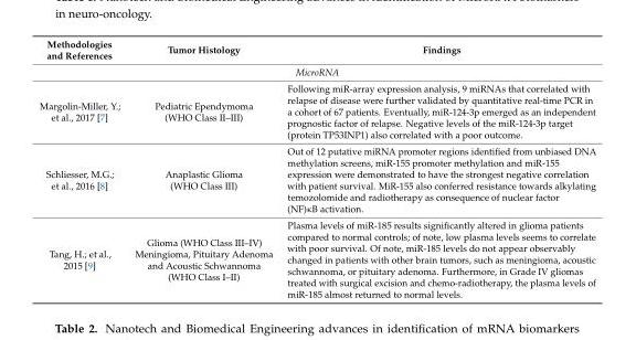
<table><thead><tr><td>Methodologies and References</td><td>Tumor Histology</td><td>Findings</td></tr></thead><tbody><tr><td colspan="3">MicroRNA</td></tr><tr><td>Margolin-Miller, Y.; et al., 2017 [7]</td><td>Pediatric Ependymoma (WHO Class II–III)</td><td>Following miR-array expression analysis, 9 miRNAs that correlated with relapse of disease were further validated by quantitative real-time PCR in a cohort of 67 patients. Eventually, miR-124-3p emerged as an independent prognostic factor of relapse. Negative levels of the miR-124-3p target (protein TP53INP1) also correlated with a poor outcome.</td></tr><tr><td>Schliesser, M.G.; et al., 2016 [8]</td><td>Anaplastic Glioma (WHO Class III)</td><td>Out of 12 putative miRNA promoter regions identified from unbiased DNA methylation screens, miR-155 promoter methylation and miR-155 expression were demonstrated to have the strongest negative correlation with patient survival. MiR-155 also conferred resistance towards alkylating temozolomide and radiotherapy as consequence of nuclear factor (NF)κB activation.</td></tr><tr><td>Tang, H.; et al., 2015 [9]</td><td>Glioma (WHO Class III–IV) Meningioma, Pituitary Adenoma and Acoustic Schwannoma (WHO Class I–II)</td><td>Plasma levels of miR-185 results significantly altered in glioma patients compared to normal controls; of note, low plasma levels seems to correlate with poor survival. Of note, miR-185 levels do not appear observably changed in patients with other brain tumors, such as meningioma, acoustic schwannoma, or pituitary adenoma. Furthermore, in Grade IV gliomas treated with surgical excision and chemo-radiotherapy, the plasma levels of miR-185 almost returned to normal levels.</td></tr></tbody></table>